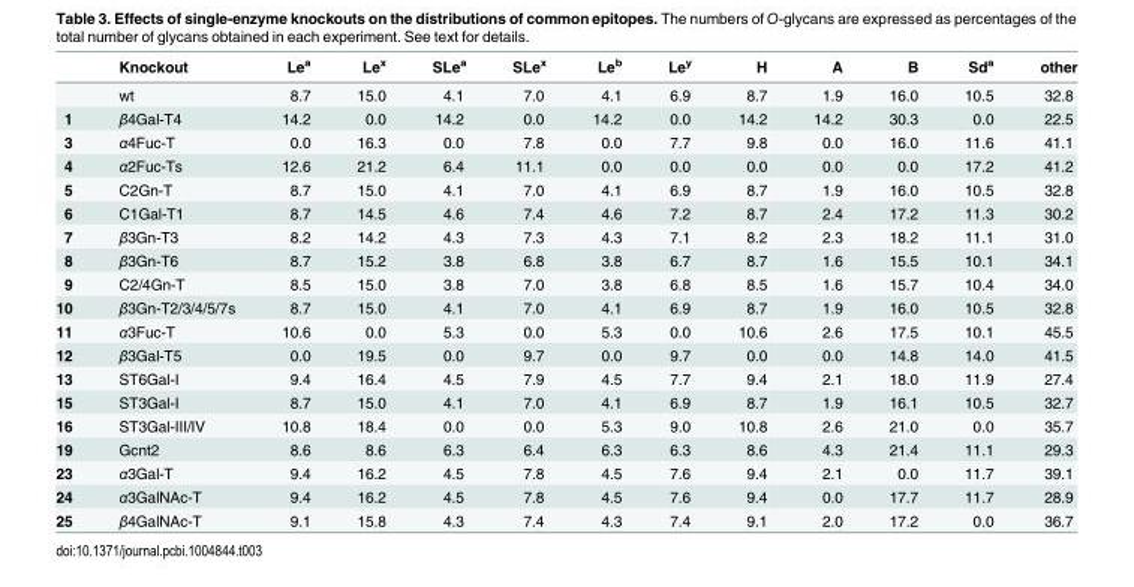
<table><thead><tr><td></td><td>Knockout</td><td>Le<sup>a</sup></td><td>Le<sup>x</sup></td><td>SLe<sup>a</sup></td><td>SLe<sup>x</sup></td><td>Le<sup>b</sup></td><td>Le<sup>y</sup></td><td>H</td><td>A</td><td>B</td><td>Sd<sup>a</sup></td><td>other</td></tr></thead><tbody><tr><td></td><td>wt</td><td>8.7</td><td>15.0</td><td>4.1</td><td>7.0</td><td>4.1</td><td>6.9</td><td>8.7</td><td>1.9</td><td>16.0</td><td>10.5</td><td>32.8</td></tr><tr><td>1</td><td>β4Gal-T4</td><td>14.2</td><td>0.0</td><td>14.2</td><td>0.0</td><td>14.2</td><td>0.0</td><td>14.2</td><td>14.2</td><td>30.3</td><td>0.0</td><td>22.5</td></tr><tr><td>3</td><td>α4Fuc-T</td><td>0.0</td><td>16.3</td><td>0.0</td><td>7.8</td><td>0.0</td><td>7.7</td><td>9.8</td><td>0.0</td><td>16.0</td><td>11.6</td><td>41.1</td></tr><tr><td>4</td><td>α2Fuc-Ts</td><td>12.6</td><td>21.2</td><td>6.4</td><td>11.1</td><td>0.0</td><td>0.0</td><td>0.0</td><td>0.0</td><td>0.0</td><td>17.2</td><td>41.2</td></tr><tr><td>5</td><td>C2Gn-T</td><td>8.7</td><td>15.0</td><td>4.1</td><td>7.0</td><td>4.1</td><td>6.9</td><td>8.7</td><td>1.9</td><td>16.0</td><td>10.5</td><td>32.8</td></tr><tr><td>6</td><td>C1Gal-T1</td><td>8.7</td><td>14.5</td><td>4.6</td><td>7.4</td><td>4.6</td><td>7.2</td><td>8.7</td><td>2.4</td><td>17.2</td><td>11.3</td><td>30.2</td></tr><tr><td>7</td><td>β3Gn-T3</td><td>8.2</td><td>14.2</td><td>4.3</td><td>7.3</td><td>4.3</td><td>7.1</td><td>8.2</td><td>2.3</td><td>18.2</td><td>11.1</td><td>31.0</td></tr><tr><td>8</td><td>β3Gn-T6</td><td>8.7</td><td>15.2</td><td>3.8</td><td>6.8</td><td>3.8</td><td>6.7</td><td>8.7</td><td>1.6</td><td>15.5</td><td>10.1</td><td>34.1</td></tr><tr><td>9</td><td>C2/4Gn-T</td><td>8.5</td><td>15.0</td><td>3.8</td><td>7.0</td><td>3.8</td><td>6.8</td><td>8.5</td><td>1.6</td><td>15.7</td><td>10.4</td><td>34.0</td></tr><tr><td>10</td><td>β3Gn-T2/3/4/5/7s</td><td>8.7</td><td>15.0</td><td>4.1</td><td>7.0</td><td>4.1</td><td>6.9</td><td>8.7</td><td>1.9</td><td>16.0</td><td>10.5</td><td>32.8</td></tr><tr><td>11</td><td>α3Fuc-T</td><td>10.6</td><td>0.0</td><td>5.3</td><td>0.0</td><td>5.3</td><td>0.0</td><td>10.6</td><td>2.6</td><td>17.5</td><td>10.1</td><td>45.5</td></tr><tr><td>12</td><td>β3Gal-T5</td><td>0.0</td><td>19.5</td><td>0.0</td><td>9.7</td><td>0.0</td><td>9.7</td><td>0.0</td><td>0.0</td><td>14.8</td><td>14.0</td><td>41.5</td></tr><tr><td>13</td><td>ST6Gal-I</td><td>9.4</td><td>16.4</td><td>4.5</td><td>7.9</td><td>4.5</td><td>7.7</td><td>9.4</td><td>2.1</td><td>18.0</td><td>11.9</td><td>27.4</td></tr><tr><td>15</td><td>ST3Gal-I</td><td>8.7</td><td>15.0</td><td>4.1</td><td>7.0</td><td>4.1</td><td>6.9</td><td>8.7</td><td>1.9</td><td>16.1</td><td>10.5</td><td>32.7</td></tr><tr><td>16</td><td>ST3Gal-III/IV</td><td>10.8</td><td>18.4</td><td>0.0</td><td>0.0</td><td>5.3</td><td>9.0</td><td>10.8</td><td>2.6</td><td>21.0</td><td>0.0</td><td>35.7</td></tr><tr><td>19</td><td>Gcnt2</td><td>8.6</td><td>8.6</td><td>6.3</td><td>6.4</td><td>6.3</td><td>6.3</td><td>8.6</td><td>4.3</td><td>21.4</td><td>11.1</td><td>29.3</td></tr><tr><td>23</td><td>α3Gal-T</td><td>9.4</td><td>16.2</td><td>4.5</td><td>7.8</td><td>4.5</td><td>7.6</td><td>9.4</td><td>2.1</td><td>0.0</td><td>11.7</td><td>39.1</td></tr><tr><td>24</td><td>α3GalNAc-T</td><td>9.4</td><td>16.2</td><td>4.5</td><td>7.8</td><td>4.5</td><td>7.6</td><td>9.4</td><td>0.0</td><td>17.7</td><td>11.7</td><td>28.9</td></tr><tr><td>25</td><td>β4GalNAc-T</td><td>9.1</td><td>15.8</td><td>4.3</td><td>7.4</td><td>4.3</td><td>7.4</td><td>9.1</td><td>2.0</td><td>17.2</td><td>0.0</td><td>36.7</td></tr></tbody></table>